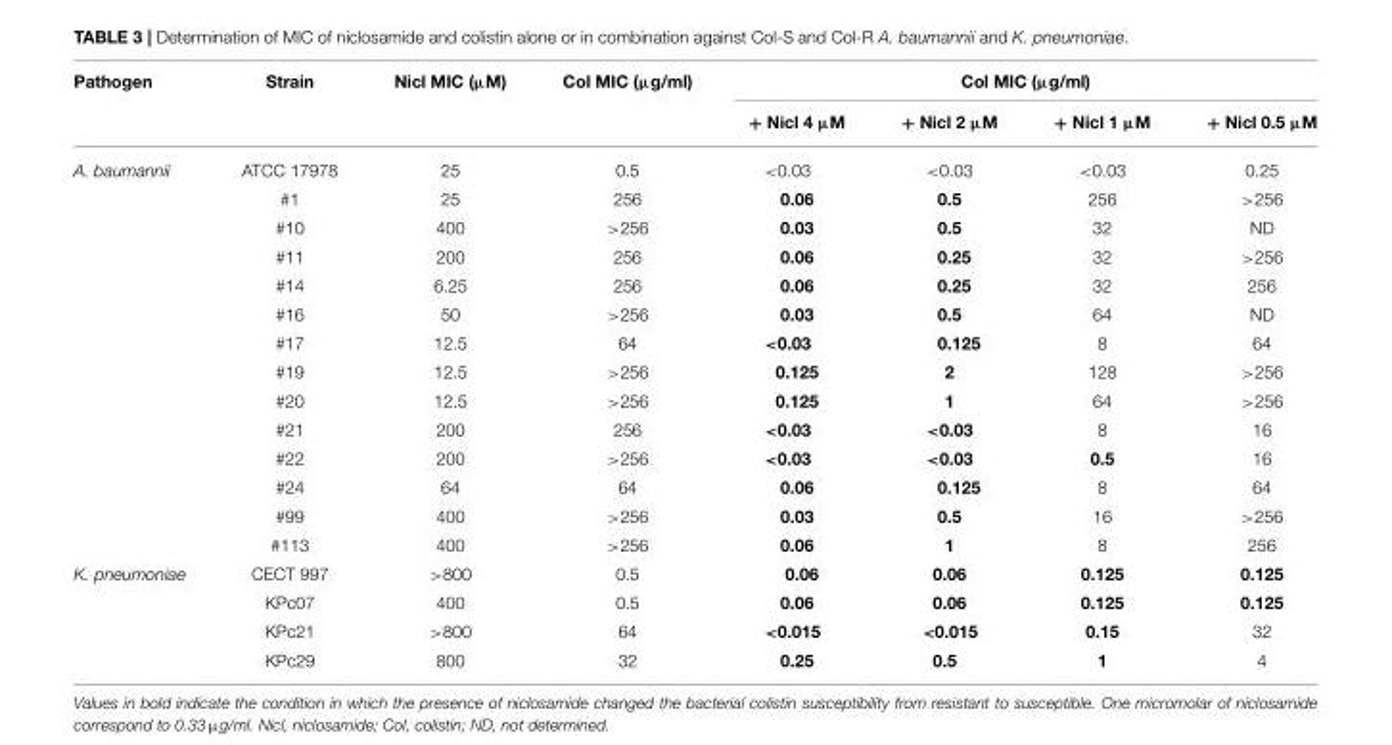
<table><thead><tr><td rowspan="2">Pathogen</td><td rowspan="2">Strain</td><td rowspan="2">Nicl MIC (µM)</td><td rowspan="2">Col MIC (µg/ml)</td><td colspan="4">Col MIC (µg/ml)</td></tr><tr><td>+ Nicl 4 µM</td><td>+ Nicl 2 µM</td><td>+ Nicl 1 µM</td><td>+ Nicl 0.5 µM</td></tr></thead><tbody><tr><td rowspan="14">A. baumannii</td><td>ATCC 17978</td><td>25</td><td>0.5</td><td>&lt;0.03</td><td>&lt;0.03</td><td>&lt;0.03</td><td>0.25</td></tr><tr><td>#1</td><td>25</td><td>256</td><td>0.06</td><td>0.5</td><td>256</td><td>&gt;256</td></tr><tr><td>#10</td><td>400</td><td>&gt;256</td><td>0.03</td><td>0.5</td><td>32</td><td>ND</td></tr><tr><td>#11</td><td>200</td><td>256</td><td>0.06</td><td>0.25</td><td>32</td><td>&gt;256</td></tr><tr><td>#14</td><td>6.25</td><td>256</td><td>0.06</td><td>0.25</td><td>32</td><td>256</td></tr><tr><td>#16</td><td>50</td><td>&gt;256</td><td>0.03</td><td>0.5</td><td>64</td><td>ND</td></tr><tr><td>#17</td><td>12.5</td><td>64</td><td>&lt;0.03</td><td>0.125</td><td>8</td><td>64</td></tr><tr><td>#19</td><td>12.5</td><td>&gt;256</td><td>0.125</td><td>2</td><td>128</td><td>&gt;256</td></tr><tr><td>#20</td><td>12.5</td><td>&gt;256</td><td>0.125</td><td>1</td><td>64</td><td>&gt;256</td></tr><tr><td>#21</td><td>200</td><td>256</td><td>&lt;0.03</td><td>&lt;0.03</td><td>8</td><td>16</td></tr><tr><td>#22</td><td>200</td><td>&gt;256</td><td>&lt;0.03</td><td>&lt;0.03</td><td>0.5</td><td>16</td></tr><tr><td>#24</td><td>64</td><td>64</td><td>0.06</td><td>0.125</td><td>8</td><td>64</td></tr><tr><td>#99</td><td>400</td><td>&gt;256</td><td>0.03</td><td>0.5</td><td>16</td><td>&gt;256</td></tr><tr><td>#113</td><td>400</td><td>&gt;256</td><td>0.06</td><td>1</td><td>8</td><td>256</td></tr><tr><td rowspan="4">K. pneumoniae</td><td>CECT 997</td><td>&gt;800</td><td>0.5</td><td>0.06</td><td>0.06</td><td>0.125</td><td>0.125</td></tr><tr><td>KPc07</td><td>400</td><td>0.5</td><td>0.06</td><td>0.06</td><td>0.125</td><td>0.125</td></tr><tr><td>KPc21</td><td>&gt;800</td><td>64</td><td>&lt;0.015</td><td>&lt;0.015</td><td>0.15</td><td>32</td></tr><tr><td>KPc29</td><td>800</td><td>32</td><td>0.25</td><td>0.5</td><td>1</td><td>4</td></tr></tbody></table>